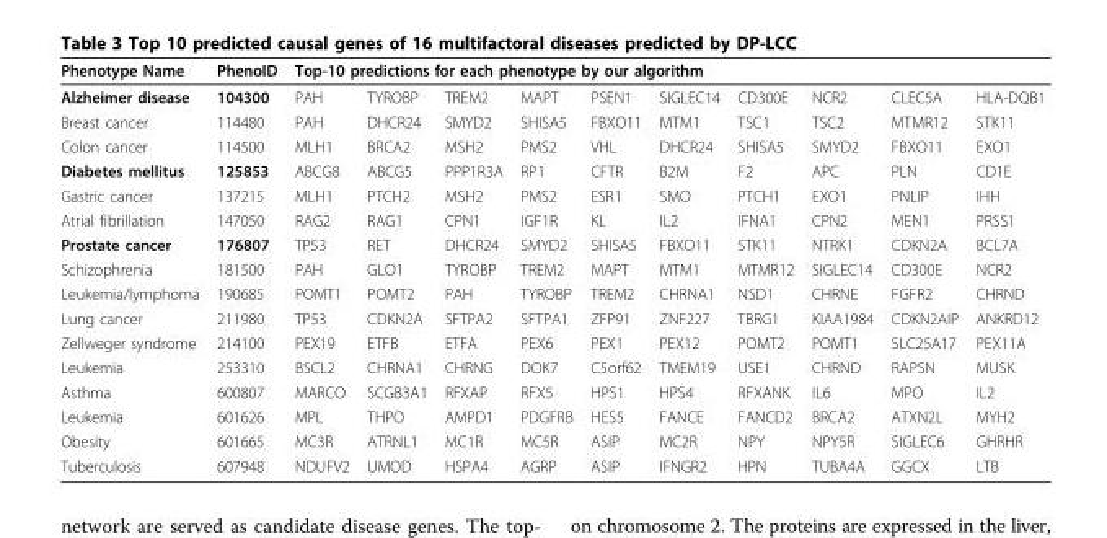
<table><thead><tr><td rowspan="2">Phenotype Name Alzheimer disease</td><td rowspan="2">PhenoID 104300</td><td colspan="10">Top-10 predictions for each phenotype by our algorithm</td></tr><tr><td>PAH</td><td>TYROBP</td><td>TREM2</td><td>MAPT</td><td>PSEN1</td><td>SIGLEC14</td><td>CD300E</td><td>NCR2</td><td>CLEC5A</td><td>HLA-DQB1</td></tr></thead><tbody><tr><td>Breast cancer</td><td>114480</td><td>PAH</td><td>DHCR24</td><td>SMYD2</td><td>SHISA5</td><td>FBXO11</td><td>MTM1</td><td>TSC1</td><td>TSC2</td><td>MTMR12</td><td>STK11</td></tr><tr><td>Colon cancer</td><td>114500</td><td>MLH1</td><td>BRCA2</td><td>MSH2</td><td>PMS2</td><td>VHL</td><td>DHCR24</td><td>SHISA5</td><td>SMYD2</td><td>FBXO11</td><td>EXO1</td></tr><tr><td>Diabetes mellitus</td><td>125853</td><td>ABCG8</td><td>ABCG5</td><td>PPP1R3A</td><td>RP1</td><td>CFTR</td><td>B2M</td><td>F2</td><td>APC</td><td>PLN</td><td>CD1E</td></tr><tr><td>Gastric cancer</td><td>137215</td><td>MLH1</td><td>PTCH2</td><td>MSH2</td><td>PMS2</td><td>ESR1</td><td>SMO</td><td>PTCH1</td><td>EXO1</td><td>PNLIP</td><td>IHH</td></tr><tr><td>Atrial fibrillation</td><td>147050</td><td>RAG2</td><td>RAG1</td><td>CPN1</td><td>IGF1R</td><td>KL</td><td>IL2</td><td>IFNA1</td><td>CPN2</td><td>MEN1</td><td>PRSS1</td></tr><tr><td>Prostate cancer</td><td>176807</td><td>TP53</td><td>RET</td><td>DHCR24</td><td>SMYD2</td><td>SHISA5</td><td>FBXO11</td><td>STK11</td><td>NTRK1</td><td>CDKN2A</td><td>BCL7A</td></tr><tr><td>Schizophrenia</td><td>181500</td><td>PAH</td><td>GLO1</td><td>TYROBP</td><td>TREM2</td><td>MAPT</td><td>MTM1</td><td>MTMR12</td><td>SIGLEC14</td><td>CD300E</td><td>NCR2</td></tr><tr><td>Leukemia/lymphoma</td><td>190685</td><td>POMT1</td><td>POMT2</td><td>PAH</td><td>TYROBP</td><td>TREM2</td><td>CHRNA1</td><td>NSD1</td><td>CHRNE</td><td>FGFR2</td><td>CHRND</td></tr><tr><td>Lung cancer</td><td>211980</td><td>TP53</td><td>CDKN2A</td><td>SFTPA2</td><td>SFTPA1</td><td>ZFP91</td><td>ZNF227</td><td>TBRG1</td><td>KIAA1984</td><td>CDKN2AIP</td><td>ANKRD12</td></tr><tr><td>Zellweger syndrome</td><td>214100</td><td>PEX19</td><td>ETFB</td><td>ETFA</td><td>PEX6</td><td>PEX1</td><td>PEX12</td><td>POMT2</td><td>POMT1</td><td>SLC25A17</td><td>PEX11A</td></tr><tr><td>Leukemia</td><td>253310</td><td>BSCL2</td><td>CHRNA1</td><td>CHRNG</td><td>DOK7</td><td>C5orf62</td><td>TMEM19</td><td>USE1</td><td>CHRND</td><td>RAPSN</td><td>MUSK</td></tr><tr><td>Asthma</td><td>600807</td><td>MARCO</td><td>SCGB3A1</td><td>RFXAP</td><td>RFX5</td><td>HPS1</td><td>HPS4</td><td>RFXANK</td><td>IL6</td><td>MPO</td><td>IL2</td></tr><tr><td>Leukemia</td><td>601626</td><td>MPL</td><td>THPO</td><td>AMPD1</td><td>PDGFRB</td><td>HES5</td><td>FANCE</td><td>FANCD2</td><td>BRCA2</td><td>ATXN2L</td><td>MYH2</td></tr><tr><td>Obesity</td><td>601665</td><td>MC3R</td><td>ATRNL1</td><td>MC1R</td><td>MC5R</td><td>ASIP</td><td>MC2R</td><td>NPY</td><td>NPY5R</td><td>SIGLEC6</td><td>GHRHR</td></tr><tr><td>Tuberculosis</td><td>607948</td><td>NDUFV2</td><td>UMOD</td><td>HSPA4</td><td>AGRP</td><td>ASIP</td><td>IFNGR2</td><td>HPN</td><td>TUBA4A</td><td>GGCX</td><td>LTB</td></tr></tbody></table>